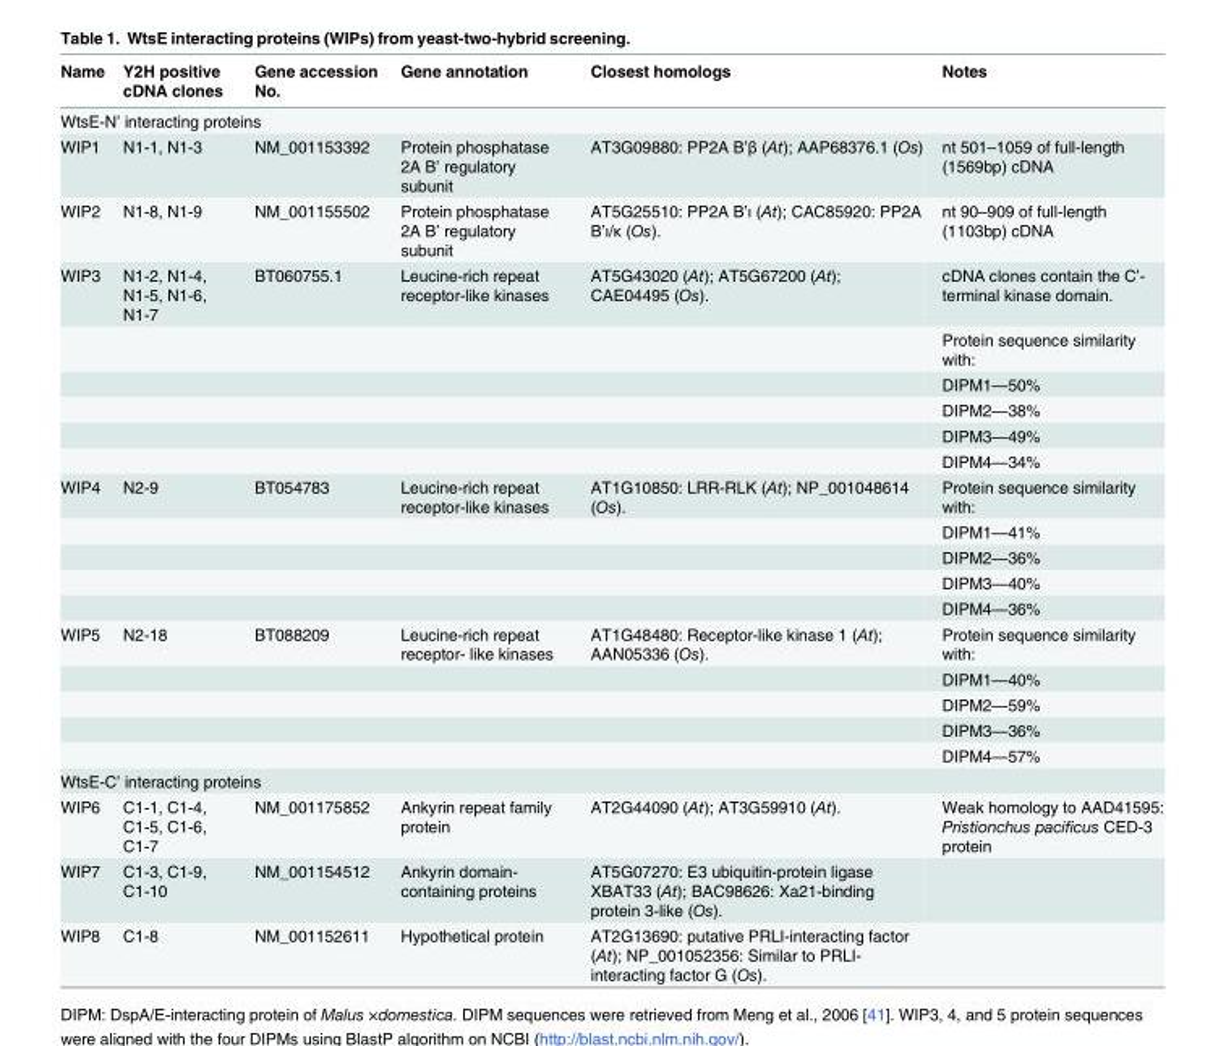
<table><thead><tr><td>Name</td><td>Y2H positive cDNA clones</td><td>Gene accession No.</td><td>Gene annotation</td><td>Closest homologs</td><td>Notes</td></tr></thead><tbody><tr><td colspan="6">WtsE-N’ interacting proteins</td></tr><tr><td>WIP1</td><td>N1-1, N1-3</td><td>NM_001153392</td><td>Protein phosphatase 2A B’ regulatory subunit</td><td>AT3G09880: PP2A B’β (At); AAP68376.1 (Os)</td><td>nt 501–1059 of full-length (1569bp) cDNA</td></tr><tr><td>WIP2</td><td>N1-8, N1-9</td><td>NM_001155502</td><td>Protein phosphatase 2A B’ regulatory subunit</td><td>AT5G25510: PP2A B’ι (At); CAC85920: PP2A B’ι/κ (Os).</td><td>nt 90–909 of full-length (1103bp) cDNA</td></tr><tr><td rowspan="6">WIP3</td><td>N1-2, N1-4, N1-5, N1-6, N1-7</td><td>BT060755.1</td><td>Leucine-rich repeat receptor-like kinases</td><td>AT5G43020 (At); AT5G67200 (At); CAE04495 (Os).</td><td>cDNA clones contain the C’- terminal kinase domain.</td></tr><tr><td></td><td></td><td></td><td></td><td>Protein sequence similarity with:</td></tr><tr><td></td><td></td><td></td><td></td><td>DIPM1—50%</td></tr><tr><td></td><td></td><td></td><td></td><td>DIPM2—38%</td></tr><tr><td></td><td></td><td></td><td></td><td>DIPM3—49%</td></tr><tr><td></td><td></td><td></td><td></td><td>DIPM4—34%</td></tr><tr><td rowspan="5">WIP4</td><td>N2-9</td><td>BT054783</td><td>Leucine-rich repeat receptor-like kinases</td><td>AT1G10850: LRR-RLK (At); NP_001048614 (Os).</td><td>Protein sequence similarity with:</td></tr><tr><td></td><td></td><td></td><td></td><td>DIPM1—41%</td></tr><tr><td></td><td></td><td></td><td></td><td>DIPM2—36%</td></tr><tr><td></td><td></td><td></td><td></td><td>DIPM3—40%</td></tr><tr><td></td><td></td><td></td><td></td><td>DIPM4—36%</td></tr><tr><td rowspan="5">WIP5</td><td>N2-18</td><td>BT088209</td><td>Leucine-rich repeat receptor- like kinases</td><td>AT1G48480: Receptor-like kinase 1 (At); AAN05336 (Os).</td><td>Protein sequence similarity with:</td></tr><tr><td></td><td></td><td></td><td></td><td>DIPM1—40%</td></tr><tr><td></td><td></td><td></td><td></td><td>DIPM2—59%</td></tr><tr><td></td><td></td><td></td><td></td><td>DIPM3—36%</td></tr><tr><td></td><td></td><td></td><td></td><td>DIPM4—57%</td></tr><tr><td colspan="6">WtsE-C’ interacting proteins</td></tr><tr><td>WIP6</td><td>C1-1, C1-4, C1-5, C1-6, C1-7</td><td>NM_001175852</td><td>Ankyrin repeat family protein</td><td>AT2G44090 (At); AT3G59910 (At).</td><td>Weak homology to AAD41595: Pristionchus pacificus CED-3 protein</td></tr><tr><td>WIP7</td><td>C1-3, C1-9, C1-10</td><td>NM_001154512</td><td>Ankyrin domain- containing proteins</td><td>AT5G07270: E3 ubiquitin-protein ligase XBAT33 (At); BAC98626: Xa21-binding protein 3-like (Os).</td><td></td></tr><tr><td>WIP8</td><td>C1-8</td><td>NM_001152611</td><td>Hypothetical protein</td><td>AT2G13690: putative PRLI-interacting factor (At); NP_001052356: Similar to PRLI- interacting factor G (Os).</td><td></td></tr></tbody></table>